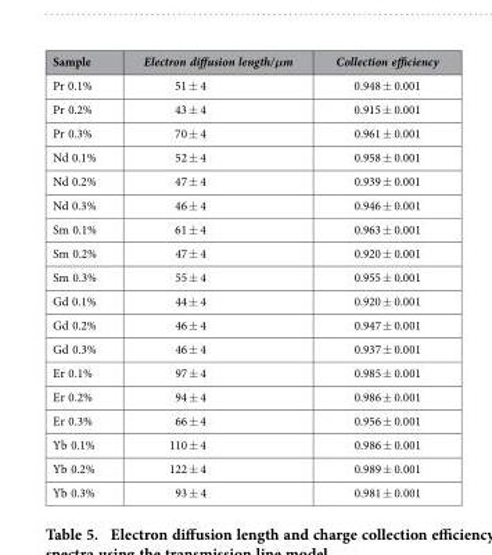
<table><thead><tr><td>Sample</td><td>Electron diffusion length/μm</td><td>Collection efficiency</td></tr></thead><tbody><tr><td>Pr 0.1%</td><td>51 ± 4</td><td>0.948 ± 0.001</td></tr><tr><td>Pr 0.2%</td><td>43 ± 4</td><td>0.915 ± 0.001</td></tr><tr><td>Pr 0.3%</td><td>70 ± 4</td><td>0.961 ± 0.001</td></tr><tr><td>Nd 0.1%</td><td>52 ± 4</td><td>0.958 ± 0.001</td></tr><tr><td>Nd 0.2%</td><td>47 ± 4</td><td>0.939 ± 0.001</td></tr><tr><td>Nd 0.3%</td><td>46 ± 4</td><td>0.946 ± 0.001</td></tr><tr><td>Sm 0.1%</td><td>61 ± 4</td><td>0.963 ± 0.001</td></tr><tr><td>Sm 0.2%</td><td>47 ± 4</td><td>0.920 ± 0.001</td></tr><tr><td>Sm 0.3%</td><td>55 ± 4</td><td>0.955 ± 0.001</td></tr><tr><td>Gd 0.1%</td><td>44 ± 4</td><td>0.920 ± 0.001</td></tr><tr><td>Gd 0.2%</td><td>46 ± 4</td><td>0.947 ± 0.001</td></tr><tr><td>Gd 0.3%</td><td>46 ± 4</td><td>0.937 ± 0.001</td></tr><tr><td>Er 0.1%</td><td>97 ± 4</td><td>0.985 ± 0.001</td></tr><tr><td>Er 0.2%</td><td>94 ± 4</td><td>0.986 ± 0.001</td></tr><tr><td>Er 0.3%</td><td>66 ± 4</td><td>0.956 ± 0.001</td></tr><tr><td>Yb 0.1%</td><td>110 ± 4</td><td>0.986 ± 0.001</td></tr><tr><td>Yb 0.2%</td><td>122 ± 4</td><td>0.989 ± 0.001</td></tr><tr><td>Yb 0.3%</td><td>93 ± 4</td><td>0.981 ± 0.001</td></tr></tbody></table>